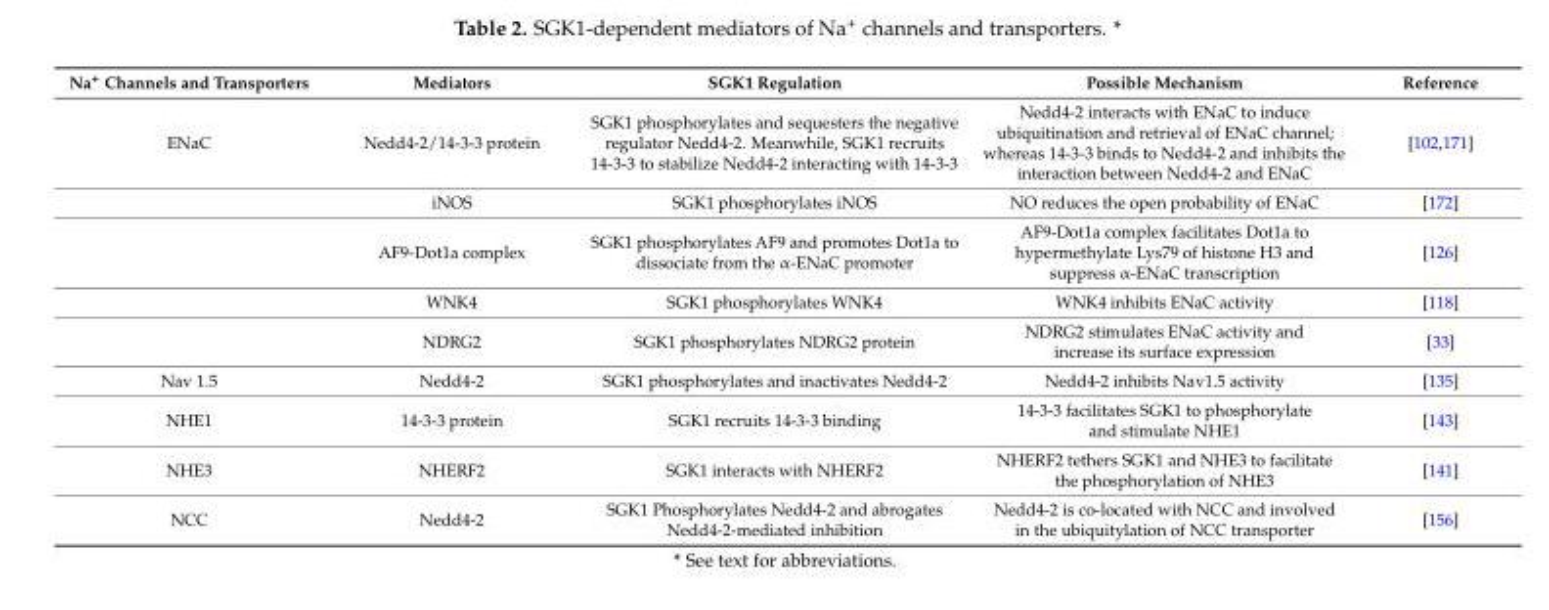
<table><thead><tr><td>Na<sup>+</sup> Channels and Transporters</td><td>Mediators</td><td>SGK1 Regulation</td><td>Possible Mechanism</td><td>Reference</td></tr></thead><tbody><tr><td rowspan="5">ENaC</td><td>Nedd4-2/14-3-3 protein</td><td>SGK1 phosphorylates and sequesters the negative regulator Nedd4-2. Meanwhile, SGK1 recruits 14-3-3 to stabilize Nedd4-2 interacting with 14-3-3</td><td>Nedd4-2 interacts with ENaC to induce ubiquitination and retrieval of ENaC channel; whereas 14-3-3 binds to Nedd4-2 and inhibits the interaction between Nedd4-2 and ENaC</td><td>[102,171]</td></tr><tr><td>iNOS</td><td>SGK1 phosphorylates iNOS</td><td>NO reduces the open probability of ENaC</td><td>[172]</td></tr><tr><td>AF9-Dot1a complex</td><td>SGK1 phosphorylates AF9 and promotes Dot1a to dissociate from the α-ENaC promoter</td><td>AF9-Dot1a complex facilitates Dot1a to hypermethylate Lys79 of histone H3 and suppress α-ENaC transcription</td><td>[126]</td></tr><tr><td>WNK4</td><td>SGK1 phosphorylates WNK4</td><td>WNK4 inhibits ENaC activity</td><td>[118]</td></tr><tr><td>NDRG2</td><td>SGK1 phosphorylates NDRG2 protein</td><td>NDRG2 stimulates ENaC activity and increase its surface expression</td><td>[33]</td></tr><tr><td>Nav 1.5</td><td>Nedd4-2</td><td>SGK1 phosphorylates and inactivates Nedd4-2</td><td>Nedd4-2 inhibits Nav1.5 activity</td><td>[135]</td></tr><tr><td>NHE1</td><td>14-3-3 protein</td><td>SGK1 recruits 14-3-3 binding</td><td>14-3-3 facilitates SGK1 to phosphorylate and stimulate NHE1</td><td>[143]</td></tr><tr><td>NHE3</td><td>NHERF2</td><td>SGK1 interacts with NHERF2</td><td>NHERF2 tethers SGK1 and NHE3 to facilitate the phosphorylation of NHE3</td><td>[141]</td></tr><tr><td>NCC</td><td>Nedd4-2</td><td>SGK1 Phosphorylates Nedd4-2 and abrogates Nedd4-2-mediated inhibition</td><td>Nedd4-2 is co-located with NCC and involved in the ubiquitylation of NCC transporter</td><td>[156]</td></tr></tbody></table>